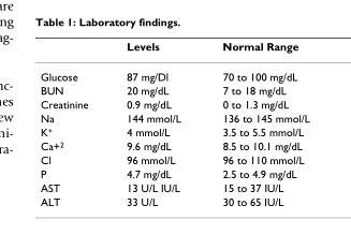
<table><thead><tr><td></td><td>Levels</td><td>Normal Range</td></tr></thead><tbody><tr><td>Glucose</td><td>87 mg/Dl</td><td>70 to 100 mg/dL</td></tr><tr><td>BUN</td><td>20 mg/dL</td><td>7 to 18 mg/dL</td></tr><tr><td>Creatinine</td><td>0.9 mg/dL</td><td>0 to 1.3 mg/dL</td></tr><tr><td>Na</td><td>144 mmol/L</td><td>136 to 145 mmol/L</td></tr><tr><td>K<sup>+</sup></td><td>4 mmol/L</td><td>3.5 to 5.5 mmol/L</td></tr><tr><td>Ca+<sup>2</sup></td><td>9.6 mg/dL</td><td>8.5 to 10.1 mg/dL</td></tr><tr><td>Cl</td><td>96 mmol/L</td><td>96 to 110 mmol/L</td></tr><tr><td>P</td><td>4.7 mg/dL</td><td>2.5 to 4.9 mg/dL</td></tr><tr><td>AST</td><td>13 U/L IU/L</td><td>15 to 37 IU/L</td></tr><tr><td>ALT</td><td>33 U/L</td><td>30 to 65 IU/L</td></tr></tbody></table>